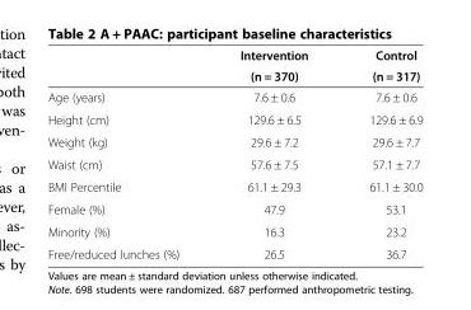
<table><thead><tr><td></td><td>Intervention (n = 370)</td><td>Control (n = 317)</td></tr></thead><tbody><tr><td>Age (years)</td><td>7.6 ± 0.6</td><td>7.6 ± 0.6</td></tr><tr><td>Height (cm)</td><td>129.6 ± 6.5</td><td>129.6 ± 6.9</td></tr><tr><td>Weight (kg)</td><td>29.6 ± 7.2</td><td>29.6 ± 7.7</td></tr><tr><td>Waist (cm)</td><td>57.6 ± 7.5</td><td>57.1 ± 7.7</td></tr><tr><td>BMI Percentile</td><td>61.1 ± 29.3</td><td>61.1 ± 30.0</td></tr><tr><td>Female (%)</td><td>47.9</td><td>53.1</td></tr><tr><td>Minority (%)</td><td>16.3</td><td>23.2</td></tr><tr><td>Free/reduced lunches (%)</td><td>26.5</td><td>36.7</td></tr></tbody></table>